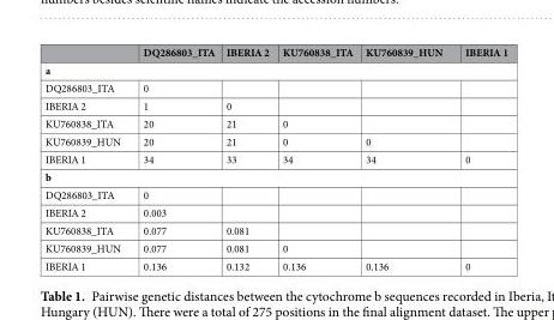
<table><thead><tr><td></td><td>DQ286803_ITA</td><td>IBERIA 2</td><td>KU760838_ITA</td><td>KU760839_HUN</td><td>IBERIA 1</td></tr></thead><tbody><tr><td colspan="6">a</td></tr><tr><td>DQ286803_ITA</td><td>0</td><td></td><td></td><td></td><td></td></tr><tr><td>IBERIA 2</td><td>1</td><td>0</td><td></td><td></td><td></td></tr><tr><td>KU760838_ITA</td><td>20</td><td>21</td><td>0</td><td></td><td></td></tr><tr><td>KU760839_HUN</td><td>20</td><td>21</td><td>0</td><td>0</td><td></td></tr><tr><td>IBERIA 1</td><td>34</td><td>33</td><td>34</td><td>34</td><td>0</td></tr><tr><td colspan="6">b</td></tr><tr><td>DQ286803_ITA</td><td>0</td><td></td><td></td><td></td><td></td></tr><tr><td>IBERIA 2</td><td>0.003</td><td></td><td></td><td></td><td></td></tr><tr><td>KU760838_ITA</td><td>0.077</td><td>0.081</td><td></td><td></td><td></td></tr><tr><td>KU760839_HUN</td><td>0.077</td><td>0.081</td><td>0</td><td></td><td></td></tr><tr><td>IBERIA 1</td><td>0.136</td><td>0.132</td><td>0.136</td><td>0.136</td><td>0</td></tr></tbody></table>